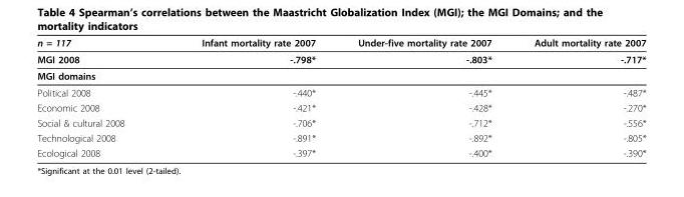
<table><thead><tr><td>n = 117</td><td>Infant mortality rate 2007</td><td>Under-five mortality rate 2007</td><td>Adult mortality rate 2007</td></tr></thead><tbody><tr><td>MGI 2008</td><td>-.798*</td><td>-.803*</td><td>-.717*</td></tr><tr><td colspan="4">MGI domains</td></tr><tr><td>Political 2008</td><td>-.440*</td><td>-.445*</td><td>-.487*</td></tr><tr><td>Economic 2008</td><td>-.421*</td><td>-.428*</td><td>-.270*</td></tr><tr><td>Social &amp; cultural 2008</td><td>-.706*</td><td>-.712*</td><td>-.556*</td></tr><tr><td>Technological 2008</td><td>-.891*</td><td>-.892*</td><td>-.805*</td></tr><tr><td>Ecological 2008</td><td>-.397*</td><td>-.400*</td><td>-.390*</td></tr></tbody></table>